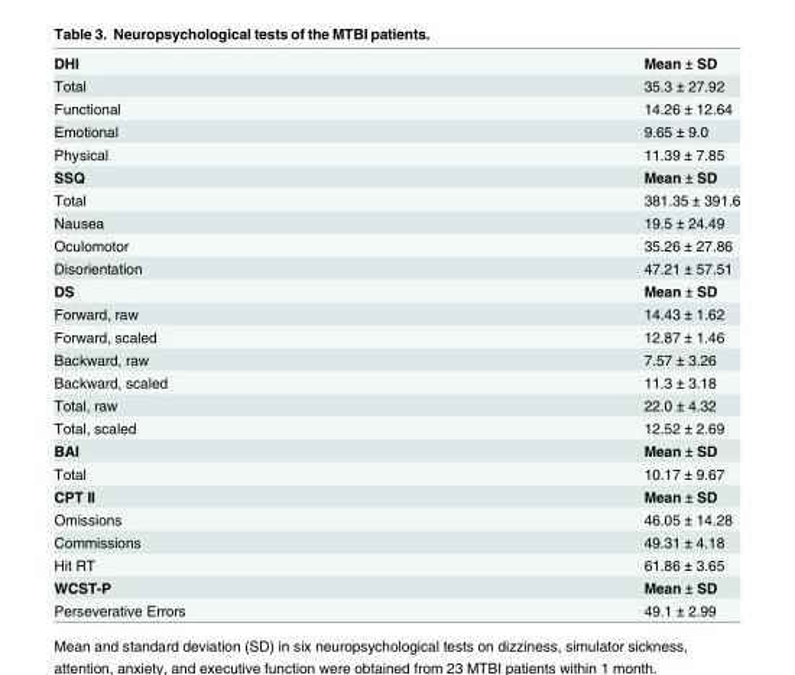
<table><tbody><tr><td>DHI</td><td>Mean ± SD</td></tr><tr><td>Total</td><td>35.3 ± 27.92</td></tr><tr><td>Functional</td><td>14.26 ± 12.64</td></tr><tr><td>Emotional</td><td>9.65 ± 9.0</td></tr><tr><td>Physical</td><td>11.39 ± 7.85</td></tr><tr><td>SSQ</td><td>Mean ± SD</td></tr><tr><td>Total</td><td>381.35 ± 391.6</td></tr><tr><td>Nausea</td><td>19.5 ± 24.49</td></tr><tr><td>Oculomotor</td><td>35.26 ± 27.86</td></tr><tr><td>Disorientation</td><td>47.21 ± 57.51</td></tr><tr><td>DS</td><td>Mean ± SD</td></tr><tr><td>Forward, raw</td><td>14.43 ± 1.62</td></tr><tr><td>Forward, scaled</td><td>12.87 ± 1.46</td></tr><tr><td>Backward, raw</td><td>7.57 ± 3.26</td></tr><tr><td>Backward, scaled</td><td>11.3 ± 3.18</td></tr><tr><td>Total, raw</td><td>22.0 ± 4.32</td></tr><tr><td>Total, scaled</td><td>12.52 ± 2.69</td></tr><tr><td>BAI</td><td>Mean ± SD</td></tr><tr><td>Total</td><td>10.17 ± 9.67</td></tr><tr><td>CPT II</td><td>Mean ± SD</td></tr><tr><td>Omissions</td><td>46.05 ± 14.28</td></tr><tr><td>Commissions</td><td>49.31 ± 4.18</td></tr><tr><td>Hit RT</td><td>61.86 ± 3.65</td></tr><tr><td>WCST-P</td><td>Mean ± SD</td></tr><tr><td>Perseverative Errors</td><td>49.1 ± 2.99</td></tr></tbody></table>